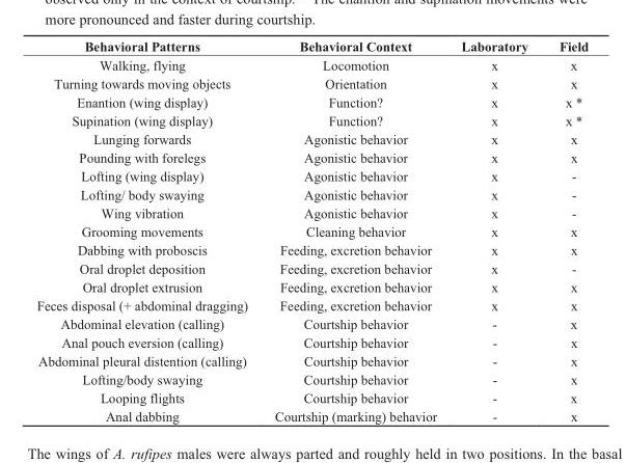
<table><thead><tr><td>Behavioral Patterns</td><td>Behavioral Context</td><td>Laboratory</td><td>Field</td></tr></thead><tbody><tr><td>Walking, flying</td><td>Locomotion</td><td>x</td><td>x</td></tr><tr><td>Turning towards moving objects</td><td>Orientation</td><td>x</td><td>x</td></tr><tr><td>Enantion (wing display)</td><td>Function?</td><td>x</td><td>x *</td></tr><tr><td>Supination (wing display)</td><td>Function?</td><td>x</td><td>x *</td></tr><tr><td>Lunging forwards</td><td>Agonistic behavior</td><td>x</td><td>x</td></tr><tr><td>Pounding with forelegs</td><td>Agonistic behavior</td><td>x</td><td>x</td></tr><tr><td>Lofting (wing display)</td><td>Agonistic behavior</td><td>x</td><td>-</td></tr><tr><td>Lofting/ body swaying</td><td>Agonistic behavior</td><td>x</td><td>-</td></tr><tr><td>Wing vibration</td><td>Agonistic behavior</td><td>x</td><td>-</td></tr><tr><td>Grooming movements</td><td>Cleaning behavior</td><td>x</td><td>x</td></tr><tr><td>Dabbing with proboscis</td><td>Feeding, excretion behavior</td><td>x</td><td>x</td></tr><tr><td>Oral droplet deposition</td><td>Feeding, excretion behavior</td><td>x</td><td>-</td></tr><tr><td>Oral droplet extrusion</td><td>Feeding, excretion behavior</td><td>x</td><td>x</td></tr><tr><td>Feces disposal (+ abdominal dragging)</td><td>Feeding, excretion behavior</td><td>x</td><td>x</td></tr><tr><td>Abdominal elevation (calling)</td><td>Courtship behavior</td><td>-</td><td>x</td></tr><tr><td>Anal pouch eversion (calling)</td><td>Courtship behavior</td><td>-</td><td>x</td></tr><tr><td>Abdominal pleural distention (calling)</td><td>Courtship behavior</td><td>-</td><td>x</td></tr><tr><td>Lofting/body swaying</td><td>Courtship behavior</td><td>-</td><td>x</td></tr><tr><td>Looping flights</td><td>Courtship behavior</td><td>-</td><td>x</td></tr><tr><td>Anal dabbing</td><td>Courtship (marking) behavior</td><td>-</td><td>x</td></tr></tbody></table>